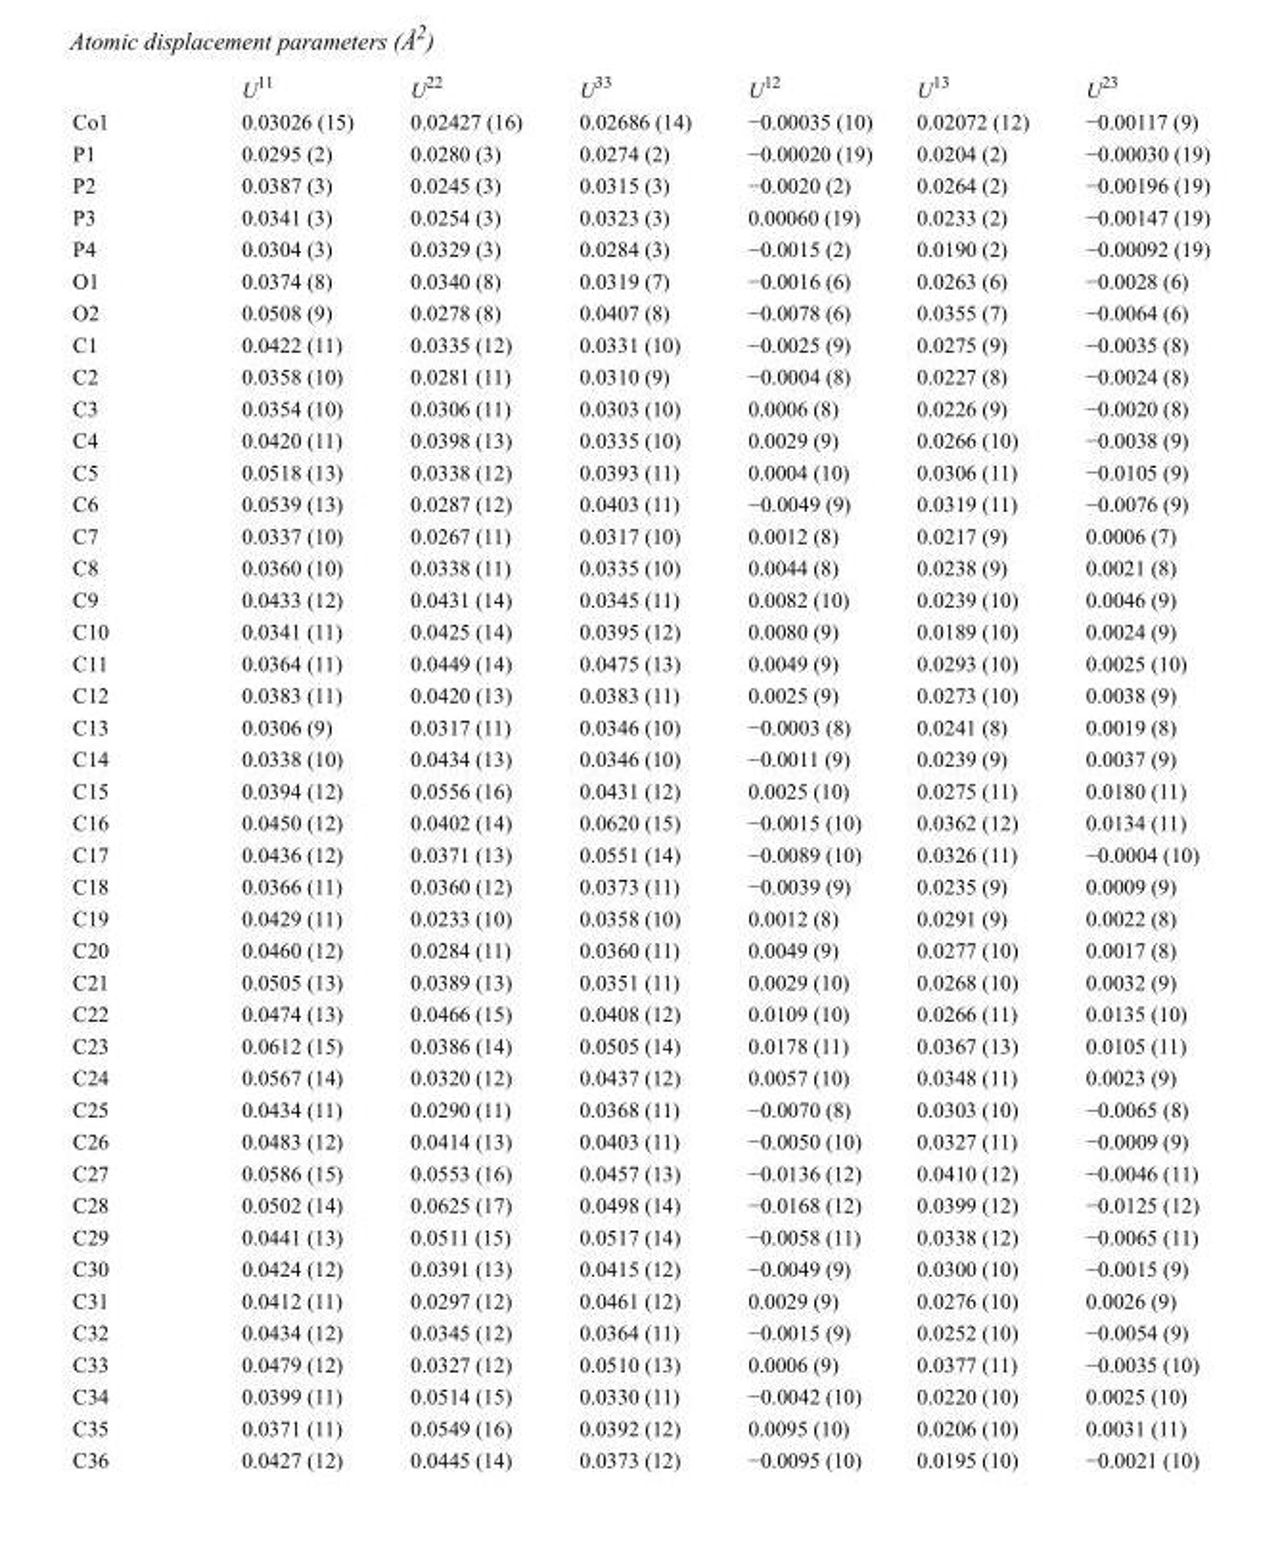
<table><thead><tr><td></td><td>U<sup>11</sup></td><td>U<sup>22</sup></td><td>U<sup>33</sup></td><td>U<sup>12</sup></td><td>U<sup>13</sup></td><td>U<sup>23</sup></td></tr></thead><tbody><tr><td>Co1</td><td>0.03026 (15)</td><td>0.02427 (16)</td><td>0.02686 (14)</td><td>−0.00035 (10)</td><td>0.02072 (12)</td><td>−0.00117 (9)</td></tr><tr><td>P1</td><td>0.0295 (2)</td><td>0.0280 (3)</td><td>0.0274 (2)</td><td>−0.00020 (19)</td><td>0.0204 (2)</td><td>−0.00030 (19)</td></tr><tr><td>P2</td><td>0.0387 (3)</td><td>0.0245 (3)</td><td>0.0315 (3)</td><td>−0.0020 (2)</td><td>0.0264 (2)</td><td>−0.00196 (19)</td></tr><tr><td>P3</td><td>0.0341 (3)</td><td>0.0254 (3)</td><td>0.0323 (3)</td><td>0.00060 (19)</td><td>0.0233 (2)</td><td>−0.00147 (19)</td></tr><tr><td>P4</td><td>0.0304 (3)</td><td>0.0329 (3)</td><td>0.0284 (3)</td><td>−0.0015 (2)</td><td>0.0190 (2)</td><td>−0.00092 (19)</td></tr><tr><td>O1</td><td>0.0374 (8)</td><td>0.0340 (8)</td><td>0.0319 (7)</td><td>−0.0016 (6)</td><td>0.0263 (6)</td><td>−0.0028 (6)</td></tr><tr><td>O2</td><td>0.0508 (9)</td><td>0.0278 (8)</td><td>0.0407 (8)</td><td>−0.0078 (6)</td><td>0.0355 (7)</td><td>−0.0064 (6)</td></tr><tr><td>C1</td><td>0.0422 (11)</td><td>0.0335 (12)</td><td>0.0331 (10)</td><td>−0.0025 (9)</td><td>0.0275 (9)</td><td>−0.0035 (8)</td></tr><tr><td>C2</td><td>0.0358 (10)</td><td>0.0281 (11)</td><td>0.0310 (9)</td><td>−0.0004 (8)</td><td>0.0227 (8)</td><td>−0.0024 (8)</td></tr><tr><td>C3</td><td>0.0354 (10)</td><td>0.0306 (11)</td><td>0.0303 (10)</td><td>0.0006 (8)</td><td>0.0226 (9)</td><td>−0.0020 (8)</td></tr><tr><td>C4</td><td>0.0420 (11)</td><td>0.0398 (13)</td><td>0.0335 (10)</td><td>0.0029 (9)</td><td>0.0266 (10)</td><td>−0.0038 (9)</td></tr><tr><td>C5</td><td>0.0518 (13)</td><td>0.0338 (12)</td><td>0.0393 (11)</td><td>0.0004 (10)</td><td>0.0306 (11)</td><td>−0.0105 (9)</td></tr><tr><td>C6</td><td>0.0539 (13)</td><td>0.0287 (12)</td><td>0.0403 (11)</td><td>−0.0049 (9)</td><td>0.0319 (11)</td><td>−0.0076 (9)</td></tr><tr><td>C7</td><td>0.0337 (10)</td><td>0.0267 (11)</td><td>0.0317 (10)</td><td>0.0012 (8)</td><td>0.0217 (9)</td><td>0.0006 (7)</td></tr><tr><td>C8</td><td>0.0360 (10)</td><td>0.0338 (11)</td><td>0.0335 (10)</td><td>0.0044 (8)</td><td>0.0238 (9)</td><td>0.0021 (8)</td></tr><tr><td>C9</td><td>0.0433 (12)</td><td>0.0431 (14)</td><td>0.0345 (11)</td><td>0.0082 (10)</td><td>0.0239 (10)</td><td>0.0046 (9)</td></tr><tr><td>C10</td><td>0.0341 (11)</td><td>0.0425 (14)</td><td>0.0395 (12)</td><td>0.0080 (9)</td><td>0.0189 (10)</td><td>0.0024 (9)</td></tr><tr><td>C11</td><td>0.0364 (11)</td><td>0.0449 (14)</td><td>0.0475 (13)</td><td>0.0049 (9)</td><td>0.0293 (10)</td><td>0.0025 (10)</td></tr><tr><td>C12</td><td>0.0383 (11)</td><td>0.0420 (13)</td><td>0.0383 (11)</td><td>0.0025 (9)</td><td>0.0273 (10)</td><td>0.0038 (9)</td></tr><tr><td>C13</td><td>0.0306 (9)</td><td>0.0317 (11)</td><td>0.0346 (10)</td><td>−0.0003 (8)</td><td>0.0241 (8)</td><td>0.0019 (8)</td></tr><tr><td>C14</td><td>0.0338 (10)</td><td>0.0434 (13)</td><td>0.0346 (10)</td><td>−0.0011 (9)</td><td>0.0239 (9)</td><td>0.0037 (9)</td></tr><tr><td>C15</td><td>0.0394 (12)</td><td>0.0556 (16)</td><td>0.0431 (12)</td><td>0.0025 (10)</td><td>0.0275 (11)</td><td>0.0180 (11)</td></tr><tr><td>C16</td><td>0.0450 (12)</td><td>0.0402 (14)</td><td>0.0620 (15)</td><td>−0.0015 (10)</td><td>0.0362 (12)</td><td>0.0134 (11)</td></tr><tr><td>C17</td><td>0.0436 (12)</td><td>0.0371 (13)</td><td>0.0551 (14)</td><td>−0.0089 (10)</td><td>0.0326 (11)</td><td>−0.0004 (10)</td></tr><tr><td>C18</td><td>0.0366 (11)</td><td>0.0360 (12)</td><td>0.0373 (11)</td><td>−0.0039 (9)</td><td>0.0235 (9)</td><td>0.0009 (9)</td></tr><tr><td>C19</td><td>0.0429 (11)</td><td>0.0233 (10)</td><td>0.0358 (10)</td><td>0.0012 (8)</td><td>0.0291 (9)</td><td>0.0022 (8)</td></tr><tr><td>C20</td><td>0.0460 (12)</td><td>0.0284 (11)</td><td>0.0360 (11)</td><td>0.0049 (9)</td><td>0.0277 (10)</td><td>0.0017 (8)</td></tr><tr><td>C21</td><td>0.0505 (13)</td><td>0.0389 (13)</td><td>0.0351 (11)</td><td>0.0029 (10)</td><td>0.0268 (10)</td><td>0.0032 (9)</td></tr><tr><td>C22</td><td>0.0474 (13)</td><td>0.0466 (15)</td><td>0.0408 (12)</td><td>0.0109 (10)</td><td>0.0266 (11)</td><td>0.0135 (10)</td></tr><tr><td>C23</td><td>0.0612 (15)</td><td>0.0386 (14)</td><td>0.0505 (14)</td><td>0.0178 (11)</td><td>0.0367 (13)</td><td>0.0105 (11)</td></tr><tr><td>C24</td><td>0.0567 (14)</td><td>0.0320 (12)</td><td>0.0437 (12)</td><td>0.0057 (10)</td><td>0.0348 (11)</td><td>0.0023 (9)</td></tr><tr><td>C25</td><td>0.0434 (11)</td><td>0.0290 (11)</td><td>0.0368 (11)</td><td>−0.0070 (8)</td><td>0.0303 (10)</td><td>−0.0065 (8)</td></tr><tr><td>C26</td><td>0.0483 (12)</td><td>0.0414 (13)</td><td>0.0403 (11)</td><td>−0.0050 (10)</td><td>0.0327 (11)</td><td>−0.0009 (9)</td></tr><tr><td>C27</td><td>0.0586 (15)</td><td>0.0553 (16)</td><td>0.0457 (13)</td><td>−0.0136 (12)</td><td>0.0410 (12)</td><td>−0.0046 (11)</td></tr><tr><td>C28</td><td>0.0502 (14)</td><td>0.0625 (17)</td><td>0.0498 (14)</td><td>−0.0168 (12)</td><td>0.0399 (12)</td><td>−0.0125 (12)</td></tr><tr><td>C29</td><td>0.0441 (13)</td><td>0.0511 (15)</td><td>0.0517 (14)</td><td>−0.0058 (11)</td><td>0.0338 (12)</td><td>−0.0065 (11)</td></tr><tr><td>C30</td><td>0.0424 (12)</td><td>0.0391 (13)</td><td>0.0415 (12)</td><td>−0.0049 (9)</td><td>0.0300 (10)</td><td>−0.0015 (9)</td></tr><tr><td>C31</td><td>0.0412 (11)</td><td>0.0297 (12)</td><td>0.0461 (12)</td><td>0.0029 (9)</td><td>0.0276 (10)</td><td>0.0026 (9)</td></tr><tr><td>C32</td><td>0.0434 (12)</td><td>0.0345 (12)</td><td>0.0364 (11)</td><td>−0.0015 (9)</td><td>0.0252 (10)</td><td>−0.0054 (9)</td></tr><tr><td>C33</td><td>0.0479 (12)</td><td>0.0327 (12)</td><td>0.0510 (13)</td><td>0.0006 (9)</td><td>0.0377 (11)</td><td>−0.0035 (10)</td></tr><tr><td>C34</td><td>0.0399 (11)</td><td>0.0514 (15)</td><td>0.0330 (11)</td><td>−0.0042 (10)</td><td>0.0220 (10)</td><td>0.0025 (10)</td></tr><tr><td>C35</td><td>0.0371 (11)</td><td>0.0549 (16)</td><td>0.0392 (12)</td><td>0.0095 (10)</td><td>0.0206 (10)</td><td>0.0031 (11)</td></tr><tr><td>C36</td><td>0.0427 (12)</td><td>0.0445 (14)</td><td>0.0373 (12)</td><td>−0.0095 (10)</td><td>0.0195 (10)</td><td>−0.0021 (10)</td></tr></tbody></table>